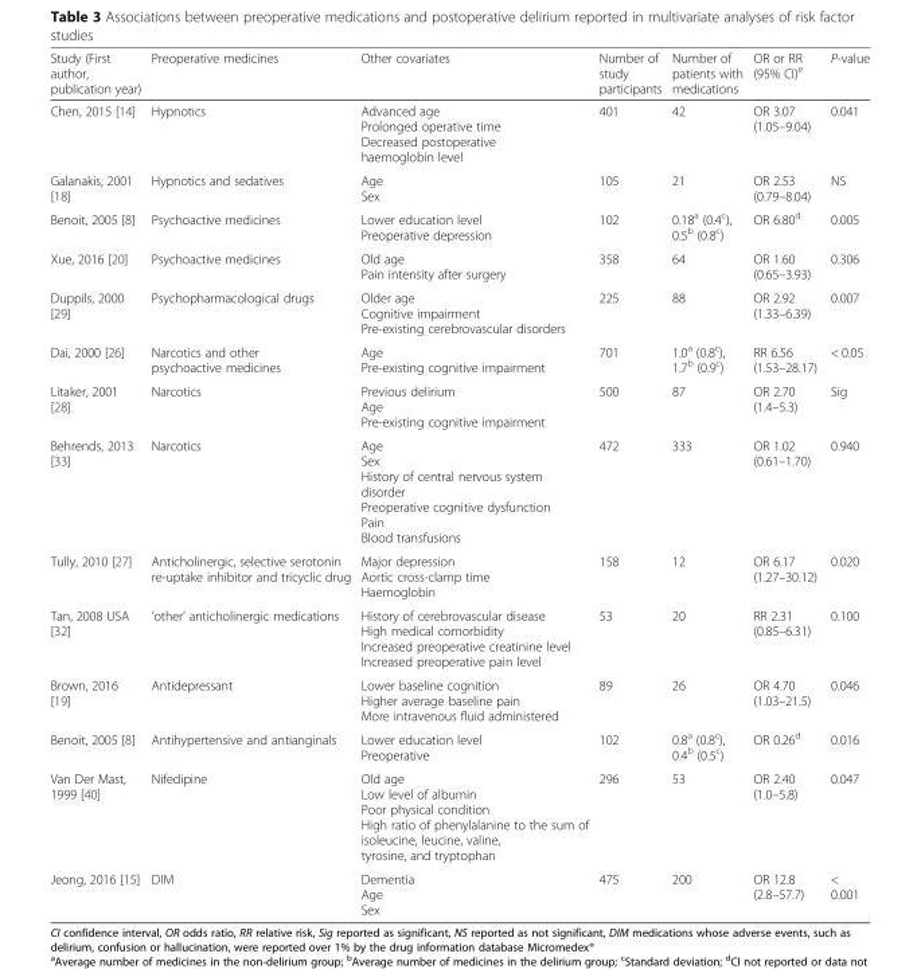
<table><thead><tr><td>Study (First author, publication year)</td><td>Preoperative medicines</td><td>Other covariates</td><td>Number of study participants</td><td>Number of patients with medications</td><td>OR or RR (95% CI)<sup>e</sup></td><td>P-value</td></tr></thead><tbody><tr><td>Chen, 2015 [14]</td><td>Hypnotics</td><td>Advanced age Prolonged operative time Decreased postoperative haemoglobin level</td><td>401</td><td>42</td><td>OR 3.07 (1.05–9.04)</td><td>0.041</td></tr><tr><td>Galanakis, 2001 [18]</td><td>Hypnotics and sedatives</td><td>Age Sex</td><td>105</td><td>21</td><td>OR 2.53 (0.79–8.04)</td><td>NS</td></tr><tr><td>Benoit, 2005 [8]</td><td>Psychoactive medicines</td><td>Lower education level Preoperative depression</td><td>102</td><td>0.18<sup>a</sup> (0.4<sup>c</sup>), 0.5<sup>b</sup> (0.8<sup>c</sup>)</td><td>OR 6.80<sup>d</sup></td><td>0.005</td></tr><tr><td>Xue, 2016 [20]</td><td>Psychoactive medicines</td><td>Old age Pain intensity after surgery</td><td>358</td><td>64</td><td>OR 1.60 (0.65–3.93)</td><td>0.306</td></tr><tr><td>Duppils, 2000 [29]</td><td>Psychopharmacological drugs</td><td>Older age Cognitive impairment Pre-existing cerebrovascular disorders</td><td>225</td><td>88</td><td>OR 2.92 (1.33–6.39)</td><td>0.007</td></tr><tr><td>Dai, 2000 [26]</td><td>Narcotics and other psychoactive medicines</td><td>Age Pre-existing cognitive impairment</td><td>701</td><td>1.0<sup>a</sup> (0.8<sup>c</sup>), 1.7<sup>b</sup> (0.9<sup>c</sup>)</td><td>RR 6.56 (1.53–28.17)</td><td>&lt; 0.05</td></tr><tr><td>Litaker, 2001 [28]</td><td>Narcotics</td><td>Previous delirium Age Pre-existing cognitive impairment</td><td>500</td><td>87</td><td>OR 2.70 (1.4–5.3)</td><td>Sig</td></tr><tr><td>Behrends, 2013 [33]</td><td>Narcotics</td><td>Age Sex History of central nervous system disorder Preoperative cognitive dysfunction Pain Blood transfusions</td><td>472</td><td>333</td><td>OR 1.02 (0.61–1.70)</td><td>0.940</td></tr><tr><td>Tully, 2010 [27]</td><td>Anticholinergic, selective serotonin re-uptake inhibitor and tricyclic drug</td><td>Major depression Aortic cross-clamp time Haemoglobin</td><td>158</td><td>12</td><td>OR 6.17 (1.27–30.12)</td><td>0.020</td></tr><tr><td>Tan, 2008 USA [32]</td><td>‘other’ anticholinergic medications</td><td>History of cerebrovascular disease High medical comorbidity Increased preoperative creatinine level Increased preoperative pain level</td><td>53</td><td>20</td><td>RR 2.31 (0.85–6.31)</td><td>0.100</td></tr><tr><td>Brown, 2016 [19]</td><td>Antidepressant</td><td>Lower baseline cognition Higher average baseline pain More intravenous fluid administered</td><td>89</td><td>26</td><td>OR 4.70 (1.03–21.5)</td><td>0.046</td></tr><tr><td>Benoit, 2005 [8]</td><td>Antihypertensive and antianginals</td><td>Lower education level Preoperative</td><td>102</td><td>0.8<sup>a</sup> (0.8<sup>c</sup>), 0.4<sup>b</sup> (0.5<sup>c</sup>)</td><td>OR 0.26<sup>d</sup></td><td>0.016</td></tr><tr><td>Van Der Mast, 1999 [40]</td><td>Nifedipine</td><td>Old age Low level of albumin Poor physical condition High ratio of phenylalanine to the sum of isoleucine, leucine, valine, tyrosine, and tryptophan</td><td>296</td><td>53</td><td>OR 2.40 (1.0–5.8)</td><td>0.047</td></tr><tr><td>Jeong, 2016 [15]</td><td>DIM</td><td>Dementia Age Sex</td><td>475</td><td>200</td><td>OR 12.8 (2.8–57.7)</td><td>&lt; 0.001</td></tr></tbody></table>